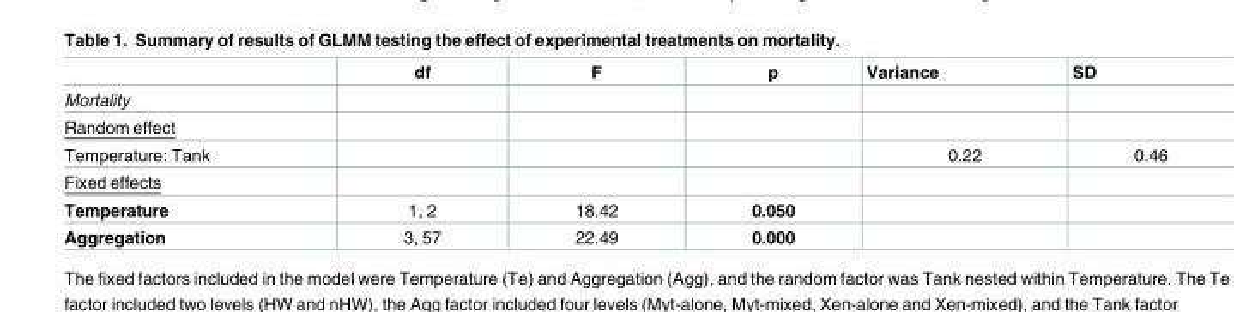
<table><thead><tr><td></td><td>df</td><td>F</td><td>p</td><td>Variance</td><td>SD</td></tr></thead><tbody><tr><td colspan="6">Mortality</td></tr><tr><td colspan="6">Random effect</td></tr><tr><td>Temperature: Tank</td><td></td><td></td><td></td><td>0.22</td><td>0.46</td></tr><tr><td colspan="6">Fixed effects</td></tr><tr><td>Temperature</td><td>1, 2</td><td>18.42</td><td>0.050</td><td></td><td></td></tr><tr><td>Aggregation</td><td>3, 57</td><td>22.49</td><td>0.000</td><td></td><td></td></tr></tbody></table>